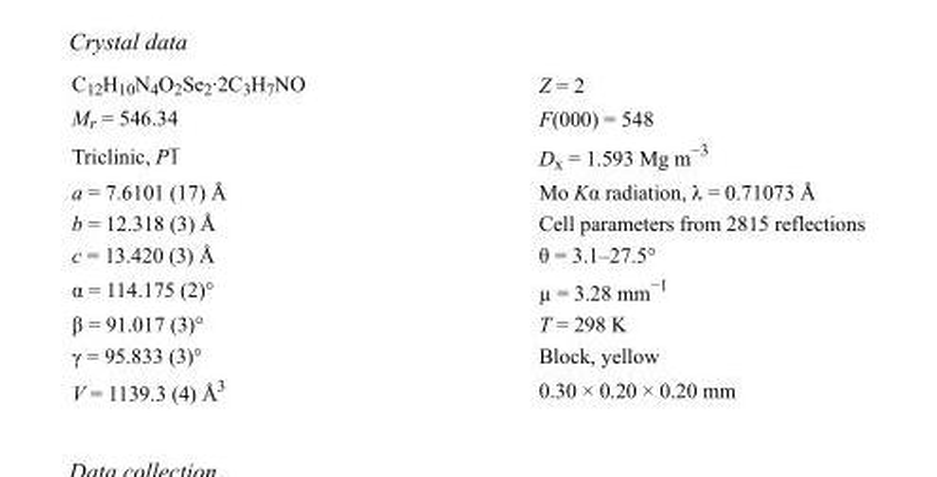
<table><tbody><tr><td>C<sub>12</sub>H<sub>10</sub>N<sub>4</sub>O<sub>2</sub>Se<sub>2</sub>·2C<sub>3</sub>H<sub>7</sub>NO</td><td>Z = 2</td></tr><tr><td>M<sub>r</sub> = 546.34</td><td>F(000) = 548</td></tr><tr><td>Triclinic, P1</td><td>D<sub>x</sub> = 1.593 Mg m<sup>−3</sup></td></tr><tr><td>a = 7.6101 (17) Å</td><td>Mo Kα radiation, λ = 0.71073 Å</td></tr><tr><td>b = 12.318 (3) Å</td><td>Cell parameters from 2815 reflections</td></tr><tr><td>c = 13.420 (3) Å</td><td>θ = 3.1–27.5°</td></tr><tr><td>α = 114.175 (2)°</td><td>µ = 3.28 mm<sup>−1</sup></td></tr><tr><td>β = 91.017 (3)°</td><td>T = 298 K</td></tr><tr><td>γ = 95.833 (3)°</td><td>Block, yellow</td></tr><tr><td>V = 1139.3 (4) Å<sup>3</sup></td><td>0.30 × 0.20 × 0.20 mm</td></tr></tbody></table>